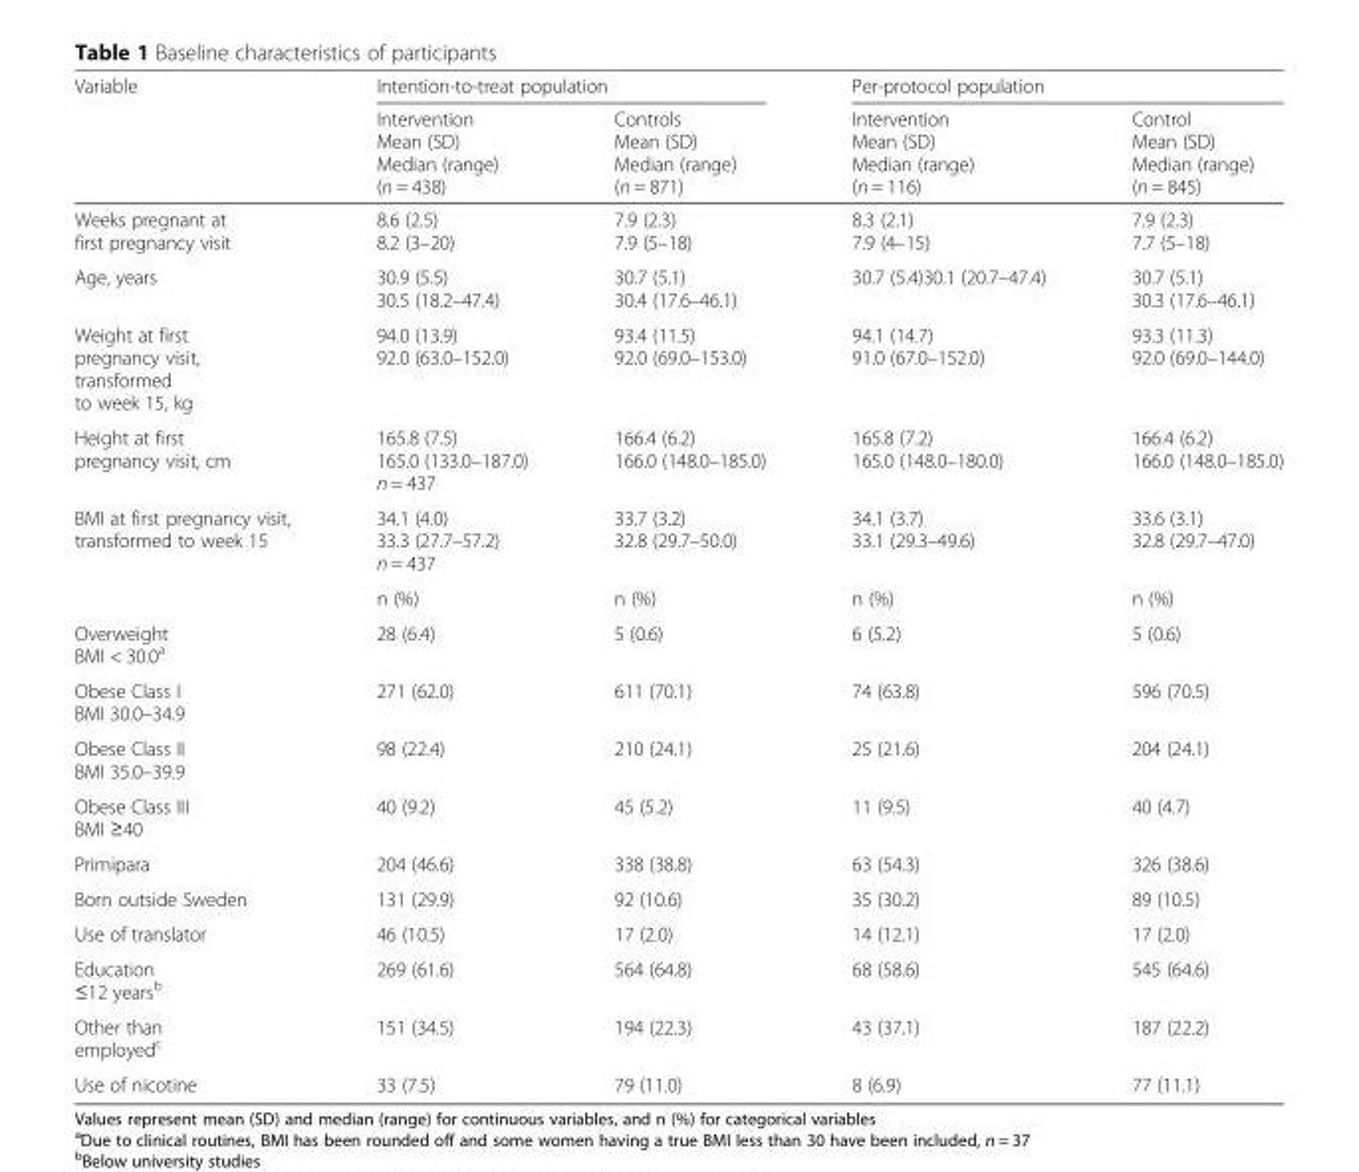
<table><thead><tr><td rowspan="2">Variable</td><td colspan="2">Intention-to-treat population</td><td colspan="2">Per-protocol population</td></tr><tr><td>Intervention Mean (SD) Median (range) (n = 438)</td><td>Controls Mean (SD) Median (range) (n = 871)</td><td>Intervention Mean (SD) Median (range) (n = 116)</td><td>Control Mean (SD) Median (range) (n = 845)</td></tr></thead><tbody><tr><td>Weeks pregnant at first pregnancy visit</td><td>8.6 (2.5) 8.2 (3–20)</td><td>7.9 (2.3) 7.9 (5–18)</td><td>8.3 (2.1) 7.9 (4–15)</td><td>7.9 (2.3) 7.7 (5–18)</td></tr><tr><td>Age, years</td><td>30.9 (5.5) 30.5 (18.2–47.4)</td><td>30.7 (5.1) 30.4 (17.6–46.1)</td><td>30.7 (5.4)30.1 (20.7–47.4)</td><td>30.7 (5.1) 30.3 (17.6–46.1)</td></tr><tr><td>Weight at first pregnancy visit, transformed to week 15, kg</td><td>94.0 (13.9) 92.0 (63.0–152.0)</td><td>93.4 (11.5) 92.0 (69.0–153.0)</td><td>94.1 (14.7) 91.0 (67.0–152.0)</td><td>93.3 (11.3) 92.0 (69.0–144.0)</td></tr><tr><td>Height at first pregnancy visit, cm</td><td>165.8 (7.5) 165.0 (133.0–187.0) n = 437</td><td>166.4 (6.2) 166.0 (148.0–185.0)</td><td>165.8 (7.2) 165.0 (148.0–180.0)</td><td>166.4 (6.2) 166.0 (148.0–185.0)</td></tr><tr><td rowspan="2">BMI at first pregnancy visit, transformed to week 15</td><td>34.1 (4.0) 33.3 (27.7–57.2) n = 437</td><td>33.7 (3.2) 32.8 (29.7–50.0)</td><td>34.1 (3.7) 33.1 (29.3–49.6)</td><td>33.6 (3.1) 32.8 (29.7–47.0)</td></tr><tr><td>n (%)</td><td>n (%)</td><td>n (%)</td><td>n (%)</td></tr><tr><td>Overweight BMI &lt; 30.0<sup>a</sup></td><td>28 (6.4)</td><td>5 (0.6)</td><td>6 (5.2)</td><td>5 (0.6)</td></tr><tr><td>Obese Class I BMI 30.0–34.9</td><td>271 (62.0)</td><td>611 (70.1)</td><td>74 (63.8)</td><td>596 (70.5)</td></tr><tr><td>Obese Class II BMI 35.0–39.9</td><td>98 (22.4)</td><td>210 (24.1)</td><td>25 (21.6)</td><td>204 (24.1)</td></tr><tr><td>Obese Class III BMI ≥40</td><td>40 (9.2)</td><td>45 (5.2)</td><td>11 (9.5)</td><td>40 (4.7)</td></tr><tr><td>Primipara</td><td>204 (46.6)</td><td>338 (38.8)</td><td>63 (54.3)</td><td>326 (38.6)</td></tr><tr><td>Born outside Sweden</td><td>131 (29.9)</td><td>92 (10.6)</td><td>35 (30.2)</td><td>89 (10.5)</td></tr><tr><td>Use of translator</td><td>46 (10.5)</td><td>17 (2.0)</td><td>14 (12.1)</td><td>17 (2.0)</td></tr><tr><td>Education ≤12 years<sup>b</sup></td><td>269 (61.6)</td><td>564 (64.8)</td><td>68 (58.6)</td><td>545 (64.6)</td></tr><tr><td>Other than employed<sup>c</sup></td><td>151 (34.5)</td><td>194 (22.3)</td><td>43 (37.1)</td><td>187 (22.2)</td></tr><tr><td>Use of nicotine</td><td>33 (7.5)</td><td>79 (11.0)</td><td>8 (6.9)</td><td>77 (11.1)</td></tr></tbody></table>